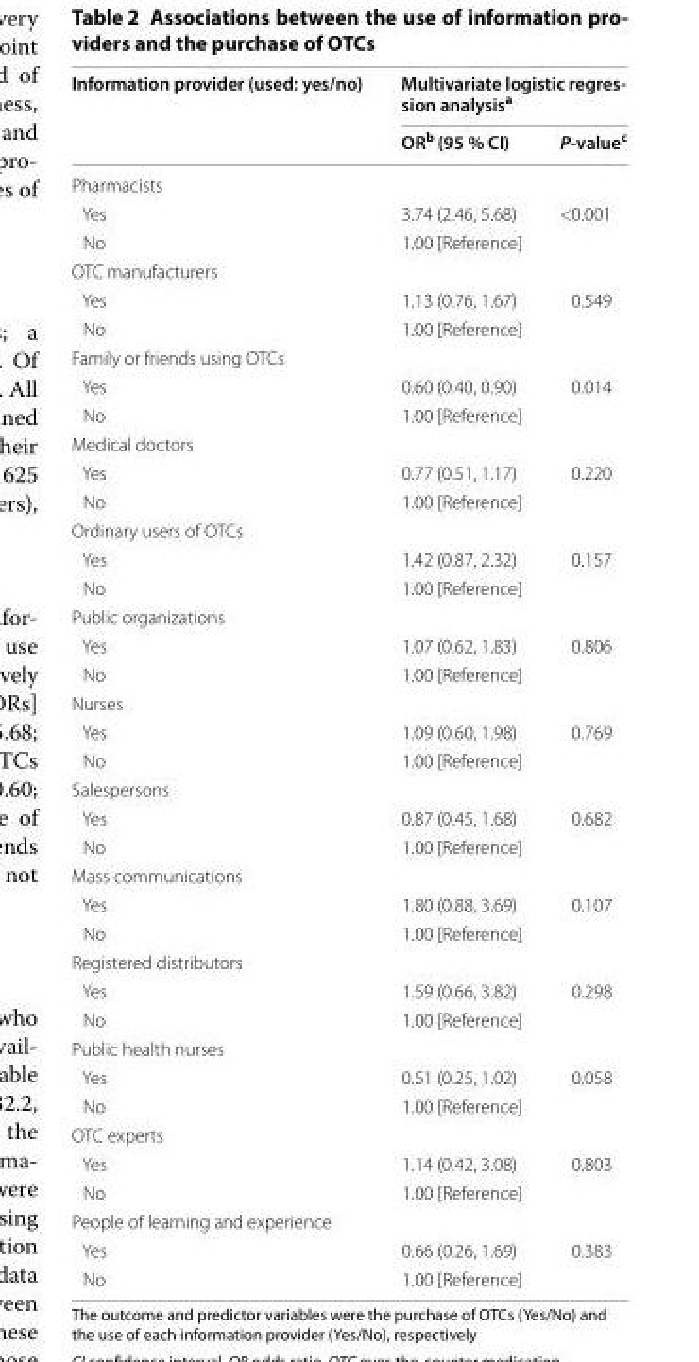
<table><thead><tr><td rowspan="2">Information provider (used: yes/no)</td><td colspan="2">Multivariate logistic regres‑ sion analysisa</td></tr><tr><td>OR<sup>b</sup> (95 % CI)</td><td>P‑value<sup>c</sup></td></tr></thead><tbody><tr><td colspan="3">Pharmacists</td></tr><tr><td>Yes</td><td>3.74 (2.46, 5.68)</td><td>&lt;0.001</td></tr><tr><td>No</td><td>1.00 [Reference]</td><td></td></tr><tr><td colspan="3">OTC manufacturers</td></tr><tr><td>Yes</td><td>1.13 (0.76, 1.67)</td><td>0.549</td></tr><tr><td>No</td><td>1.00 [Reference]</td><td></td></tr><tr><td colspan="3">Family or friends using OTCs</td></tr><tr><td>Yes</td><td>0.60 (0.40, 0.90)</td><td>0.014</td></tr><tr><td>No</td><td>1.00 [Reference]</td><td></td></tr><tr><td colspan="3">Medical doctors</td></tr><tr><td>Yes</td><td>0.77 (0.51, 1.17)</td><td>0.220</td></tr><tr><td>No</td><td>1.00 [Reference]</td><td></td></tr><tr><td colspan="3">Ordinary users of OTCs</td></tr><tr><td>Yes</td><td>1.42 (0.87, 2.32)</td><td>0.157</td></tr><tr><td>No</td><td>1.00 [Reference]</td><td></td></tr><tr><td colspan="3">Public organizations</td></tr><tr><td>Yes</td><td>1.07 (0.62, 1.83)</td><td>0.806</td></tr><tr><td>No</td><td>1.00 [Reference]</td><td></td></tr><tr><td colspan="3">Nurses</td></tr><tr><td>Yes</td><td>1.09 (0.60, 1.98)</td><td>0.769</td></tr><tr><td>No</td><td>1.00 [Reference]</td><td></td></tr><tr><td colspan="3">Salespersons</td></tr><tr><td>Yes</td><td>0.87 (0.45, 1.68)</td><td>0.682</td></tr><tr><td>No</td><td>1.00 [Reference]</td><td></td></tr><tr><td colspan="3">Mass communications</td></tr><tr><td>Yes</td><td>1.80 (0.88, 3.69)</td><td>0.107</td></tr><tr><td>No</td><td>1.00 [Reference]</td><td></td></tr><tr><td colspan="3">Registered distributors</td></tr><tr><td>Yes</td><td>1.59 (0.66, 3.82)</td><td>0.298</td></tr><tr><td>No</td><td>1.00 [Reference]</td><td></td></tr><tr><td colspan="3">Public health nurses</td></tr><tr><td>Yes</td><td>0.51 (0.25, 1.02)</td><td>0.058</td></tr><tr><td>No</td><td>1.00 [Reference]</td><td></td></tr><tr><td colspan="3">OTC experts</td></tr><tr><td>Yes</td><td>1.14 (0.42, 3.08)</td><td>0.803</td></tr><tr><td>No</td><td>1.00 [Reference]</td><td></td></tr><tr><td colspan="3">People of learning and experience</td></tr><tr><td>Yes</td><td>0.66 (0.26, 1.69)</td><td>0.383</td></tr><tr><td>No</td><td>1.00 [Reference]</td><td></td></tr></tbody></table>